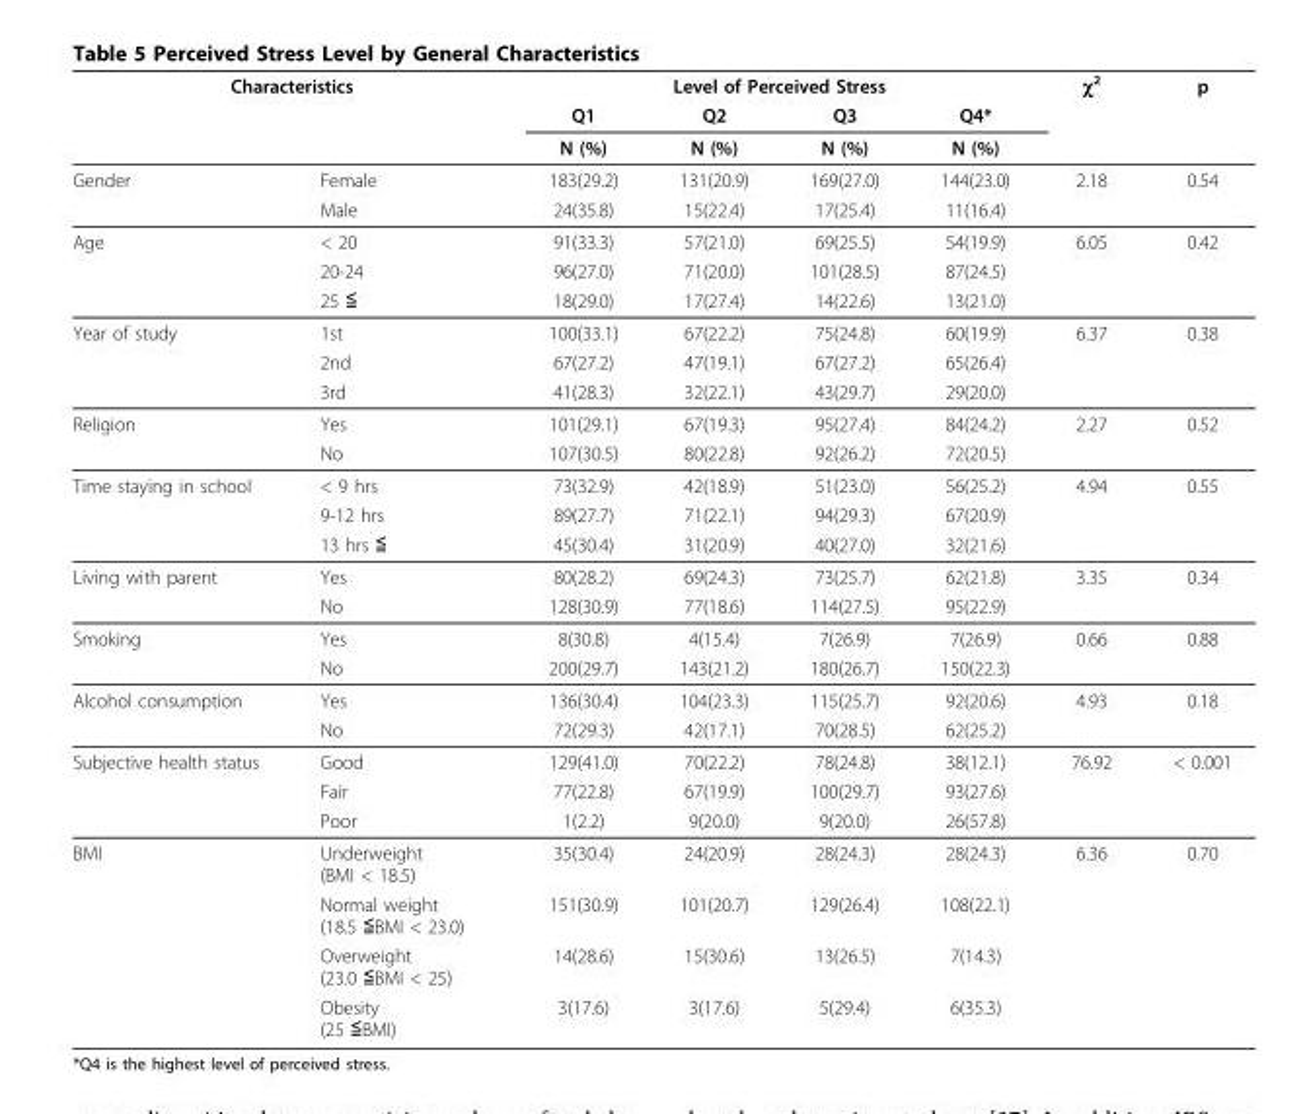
<table><tbody><tr><td colspan="2">Characteristics</td><td colspan="4">Level of Perceived Stress</td><td>χ<sup>2</sup></td><td>p</td></tr><tr><td></td><td></td><td>Q1</td><td>Q2</td><td>Q3</td><td>Q4*</td><td></td><td></td></tr><tr><td></td><td></td><td>N (%)</td><td>N (%)</td><td>N (%)</td><td>N (%)</td><td></td><td></td></tr><tr><td rowspan="2">Gender</td><td>Female</td><td>183(29.2)</td><td>131(20.9)</td><td>169(27.0)</td><td>144(23.0)</td><td>2.18</td><td>0.54</td></tr><tr><td>Male</td><td>24(35.8)</td><td>15(22.4)</td><td>17(25.4)</td><td>11(16.4)</td><td></td><td></td></tr><tr><td rowspan="3">Age</td><td>&lt; 20</td><td>91(33.3)</td><td>57(21.0)</td><td>69(25.5)</td><td>54(19.9)</td><td>6.05</td><td>0.42</td></tr><tr><td>20-24</td><td>96(27.0)</td><td>71(20.0)</td><td>101(28.5)</td><td>87(24.5)</td><td></td><td></td></tr><tr><td>25 ≦</td><td>18(29.0)</td><td>17(27.4)</td><td>14(22.6)</td><td>13(21.0)</td><td></td><td></td></tr><tr><td rowspan="3">Year of study</td><td>1st</td><td>100(33.1)</td><td>67(22.2)</td><td>75(24.8)</td><td>60(19.9)</td><td>6.37</td><td>0.38</td></tr><tr><td>2nd</td><td>67(27.2)</td><td>47(19.1)</td><td>67(27.2)</td><td>65(26.4)</td><td></td><td></td></tr><tr><td>3rd</td><td>41(28.3)</td><td>32(22.1)</td><td>43(29.7)</td><td>29(20.0)</td><td></td><td></td></tr><tr><td rowspan="2">Religion</td><td>Yes</td><td>101(29.1)</td><td>67(19.3)</td><td>95(27.4)</td><td>84(24.2)</td><td>2.27</td><td>0.52</td></tr><tr><td>No</td><td>107(30.5)</td><td>80(22.8)</td><td>92(26.2)</td><td>72(20.5)</td><td></td><td></td></tr><tr><td rowspan="3">Time staying in school</td><td>&lt; 9 hrs</td><td>73(32.9)</td><td>42(18.9)</td><td>51(23.0)</td><td>56(25.2)</td><td>4.94</td><td>0.55</td></tr><tr><td>9-12 hrs</td><td>89(27.7)</td><td>71(22.1)</td><td>94(29.3)</td><td>67(20.9)</td><td></td><td></td></tr><tr><td>13 hrs ≦</td><td>45(30.4)</td><td>31(20.9)</td><td>40(27.0)</td><td>32(21.6)</td><td></td><td></td></tr><tr><td rowspan="2">Living with parent</td><td>Yes</td><td>80(28.2)</td><td>69(24.3)</td><td>73(25.7)</td><td>62(21.8)</td><td>3.35</td><td>0.34</td></tr><tr><td>No</td><td>128(30.9)</td><td>77(18.6)</td><td>114(27.5)</td><td>95(22.9)</td><td></td><td></td></tr><tr><td rowspan="2">Smoking</td><td>Yes</td><td>8(30.8)</td><td>4(15.4)</td><td>7(26.9)</td><td>7(26.9)</td><td>0.66</td><td>0.88</td></tr><tr><td>No</td><td>200(29.7)</td><td>143(21.2)</td><td>180(26.7)</td><td>150(22.3)</td><td></td><td></td></tr><tr><td rowspan="2">Alcohol consumption</td><td>Yes</td><td>136(30.4)</td><td>104(23.3)</td><td>115(25.7)</td><td>92(20.6)</td><td>4.93</td><td>0.18</td></tr><tr><td>No</td><td>72(29.3)</td><td>42(17.1)</td><td>70(28.5)</td><td>62(25.2)</td><td></td><td></td></tr><tr><td rowspan="3">Subjective health status</td><td>Good</td><td>129(41.0)</td><td>70(22.2)</td><td>78(24.8)</td><td>38(12.1)</td><td>76.92</td><td>&lt; 0.001</td></tr><tr><td>Fair</td><td>77(22.8)</td><td>67(19.9)</td><td>100(29.7)</td><td>93(27.6)</td><td></td><td></td></tr><tr><td>Poor</td><td>1(2.2)</td><td>9(20.0)</td><td>9(20.0)</td><td>26(57.8)</td><td></td><td></td></tr><tr><td rowspan="4">BMI</td><td>Underweight (BMI &lt; 18.5)</td><td>35(30.4)</td><td>24(20.9)</td><td>28(24.3)</td><td>28(24.3)</td><td>6.36</td><td>0.70</td></tr><tr><td>Normal weight (18.5 ≦BMI &lt; 23.0)</td><td>151(30.9)</td><td>101(20.7)</td><td>129(26.4)</td><td>108(22.1)</td><td></td><td></td></tr><tr><td>Overweight (23.0 ≦BMI &lt; 25)</td><td>14(28.6)</td><td>15(30.6)</td><td>13(26.5)</td><td>7(14.3)</td><td></td><td></td></tr><tr><td>Obesity (25 ≦BMI)</td><td>3(17.6)</td><td>3(17.6)</td><td>5(29.4)</td><td>6(35.3)</td><td></td><td></td></tr></tbody></table>